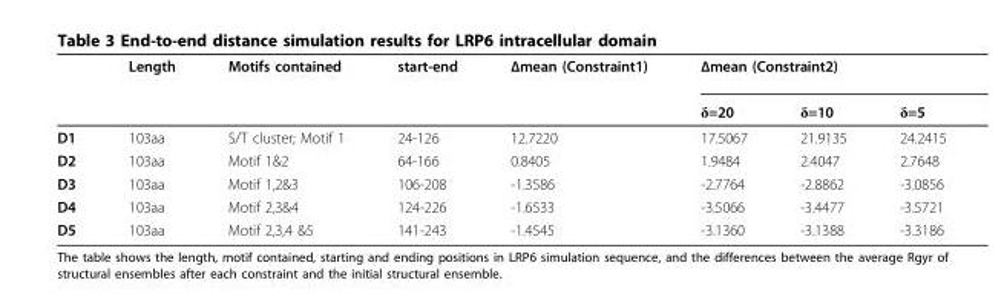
<table><thead><tr><td rowspan="2"></td><td rowspan="2">Length</td><td rowspan="2">Motifs contained</td><td rowspan="2">start-end</td><td rowspan="2">Δmean (Constraint1)</td><td colspan="3">Δmean (Constraint2)</td></tr><tr><td>δ=20</td><td>δ=10</td><td>δ=5</td></tr></thead><tbody><tr><td>D1</td><td>103aa</td><td>S/T cluster; Motif 1</td><td>24-126</td><td>12.7220</td><td>17.5067</td><td>21.9135</td><td>24.2415</td></tr><tr><td>D2</td><td>103aa</td><td>Motif 1&amp;2</td><td>64-166</td><td>0.8405</td><td>1.9484</td><td>2.4047</td><td>2.7648</td></tr><tr><td>D3</td><td>103aa</td><td>Motif 1,2&amp;3</td><td>106-208</td><td>-1.3586</td><td>-2.7764</td><td>-2.8862</td><td>-3.0856</td></tr><tr><td>D4</td><td>103aa</td><td>Motif 2,3&amp;4</td><td>124-226</td><td>-1.6533</td><td>-3.5066</td><td>-3.4477</td><td>-3.5721</td></tr><tr><td>D5</td><td>103aa</td><td>Motif 2,3,4 &amp;5</td><td>141-243</td><td>-1.4545</td><td>-3.1360</td><td>-3.1388</td><td>-3.3186</td></tr></tbody></table>